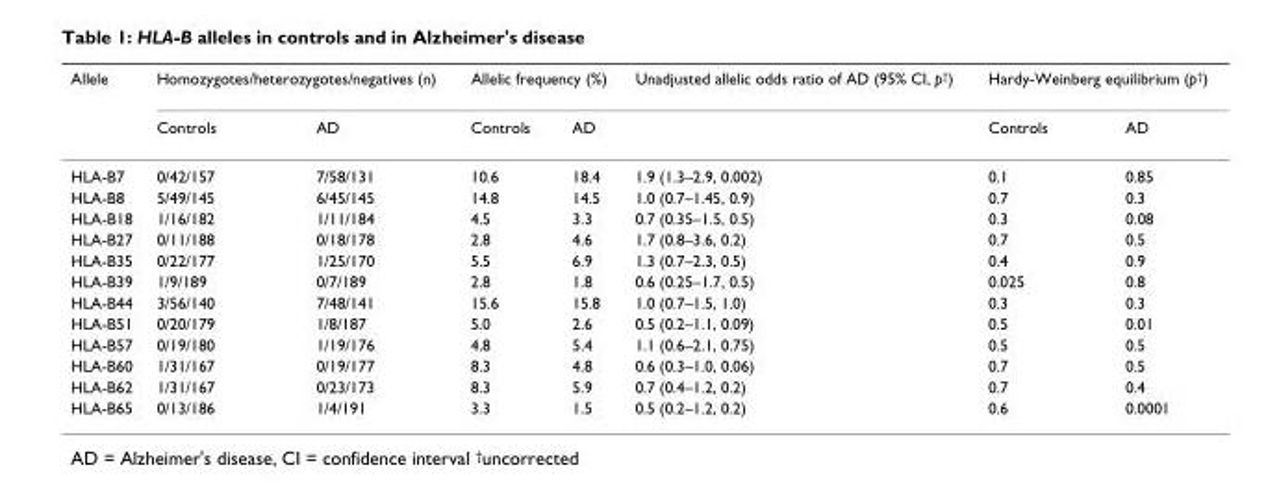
<table><thead><tr><td rowspan="2">Allele</td><td colspan="2">Homozygotes/heterozygotes/negatives (n)</td><td colspan="2">Allelic frequency (%)</td><td rowspan="2">Unadjusted allelic odds ratio of AD (95% CI, p<sup>†</sup>)</td><td colspan="2">Hardy-Weinberg equilibrium (p<sup>†</sup>)</td></tr><tr><td>Controls</td><td>AD</td><td>Controls</td><td>AD</td><td>Controls</td><td>AD</td></tr></thead><tbody><tr><td>HLA-B7</td><td>0/42/157</td><td>7/58/131</td><td>10.6</td><td>18.4</td><td>1.9 (1.3–2.9, 0.002)</td><td>0.1</td><td>0.85</td></tr><tr><td>HLA-B8</td><td>5/49/145</td><td>6/45/145</td><td>14.8</td><td>14.5</td><td>1.0 (0.7–1.45, 0.9)</td><td>0.7</td><td>0.3</td></tr><tr><td>HLA-B18</td><td>1/16/182</td><td>1/11/184</td><td>4.5</td><td>3.3</td><td>0.7 (0.35–1.5, 0.5)</td><td>0.3</td><td>0.08</td></tr><tr><td>HLA-B27</td><td>0/11/188</td><td>0/18/178</td><td>2.8</td><td>4.6</td><td>1.7 (0.8–3.6, 0.2)</td><td>0.7</td><td>0.5</td></tr><tr><td>HLA-B35</td><td>0/22/177</td><td>1/25/170</td><td>5.5</td><td>6.9</td><td>1.3 (0.7–2.3, 0.5)</td><td>0.4</td><td>0.9</td></tr><tr><td>HLA-B39</td><td>1/9/189</td><td>0/7/189</td><td>2.8</td><td>1.8</td><td>0.6 (0.25–1.7, 0.5)</td><td>0.025</td><td>0.8</td></tr><tr><td>HLA-B44</td><td>3/56/140</td><td>7/48/141</td><td>15.6</td><td>15.8</td><td>1.0 (0.7–1.5, 1.0)</td><td>0.3</td><td>0.3</td></tr><tr><td>HLA-B51</td><td>0/20/179</td><td>1/8/187</td><td>5.0</td><td>2.6</td><td>0.5 (0.2–1.1, 0.09)</td><td>0.5</td><td>0.01</td></tr><tr><td>HLA-B57</td><td>0/19/180</td><td>1/19/176</td><td>4.8</td><td>5.4</td><td>1.1 (0.6–2.1, 0.75)</td><td>0.5</td><td>0.5</td></tr><tr><td>HLA-B60</td><td>1/31/167</td><td>0/19/177</td><td>8.3</td><td>4.8</td><td>0.6 (0.3–1.0, 0.06)</td><td>0.7</td><td>0.5</td></tr><tr><td>HLA-B62</td><td>1/31/167</td><td>0/23/173</td><td>8.3</td><td>5.9</td><td>0.7 (0.4–1.2, 0.2)</td><td>0.7</td><td>0.4</td></tr><tr><td>HLA-B65</td><td>0/13/186</td><td>1/4/191</td><td>3.3</td><td>1.5</td><td>0.5 (0.2–1.2, 0.2)</td><td>0.6</td><td>0.0001</td></tr></tbody></table>